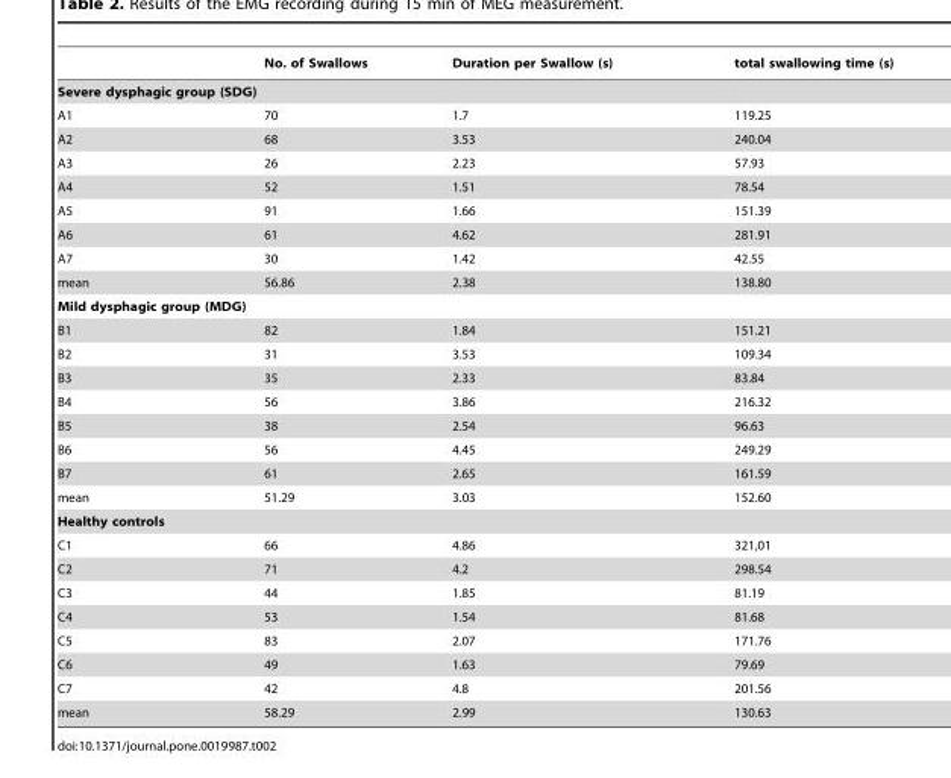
<table><thead><tr><td></td><td>No. of Swallows</td><td>Duration per Swallow (s)</td><td>total swallowing time (s)</td></tr></thead><tbody><tr><td colspan="4">Severe dysphagic group (SDG)</td></tr><tr><td>A1</td><td>70</td><td>1.7</td><td>119.25</td></tr><tr><td>A2</td><td>68</td><td>3.53</td><td>240.04</td></tr><tr><td>A3</td><td>26</td><td>2.23</td><td>57.93</td></tr><tr><td>A4</td><td>52</td><td>1.51</td><td>78.54</td></tr><tr><td>A5</td><td>91</td><td>1.66</td><td>151.39</td></tr><tr><td>A6</td><td>61</td><td>4.62</td><td>281.91</td></tr><tr><td>A7</td><td>30</td><td>1.42</td><td>42.55</td></tr><tr><td>mean</td><td>56.86</td><td>2.38</td><td>138.80</td></tr><tr><td colspan="4">Mild dysphagic group (MDG)</td></tr><tr><td>B1</td><td>82</td><td>1.84</td><td>151.21</td></tr><tr><td>B2</td><td>31</td><td>3.53</td><td>109.34</td></tr><tr><td>B3</td><td>35</td><td>2.33</td><td>83.84</td></tr><tr><td>B4</td><td>56</td><td>3.86</td><td>216.32</td></tr><tr><td>B5</td><td>38</td><td>2.54</td><td>96.63</td></tr><tr><td>B6</td><td>56</td><td>4.45</td><td>249.29</td></tr><tr><td>B7</td><td>61</td><td>2.65</td><td>161.59</td></tr><tr><td>mean</td><td>51.29</td><td>3.03</td><td>152.60</td></tr><tr><td colspan="4">Healthy controls</td></tr><tr><td>C1</td><td>66</td><td>4.86</td><td>321,01</td></tr><tr><td>C2</td><td>71</td><td>4.2</td><td>298.54</td></tr><tr><td>C3</td><td>44</td><td>1.85</td><td>81.19</td></tr><tr><td>C4</td><td>53</td><td>1.54</td><td>81.68</td></tr><tr><td>C5</td><td>83</td><td>2.07</td><td>171.76</td></tr><tr><td>C6</td><td>49</td><td>1.63</td><td>79.69</td></tr><tr><td>C7</td><td>42</td><td>4.8</td><td>201.56</td></tr><tr><td>mean</td><td>58.29</td><td>2.99</td><td>130.63</td></tr></tbody></table>